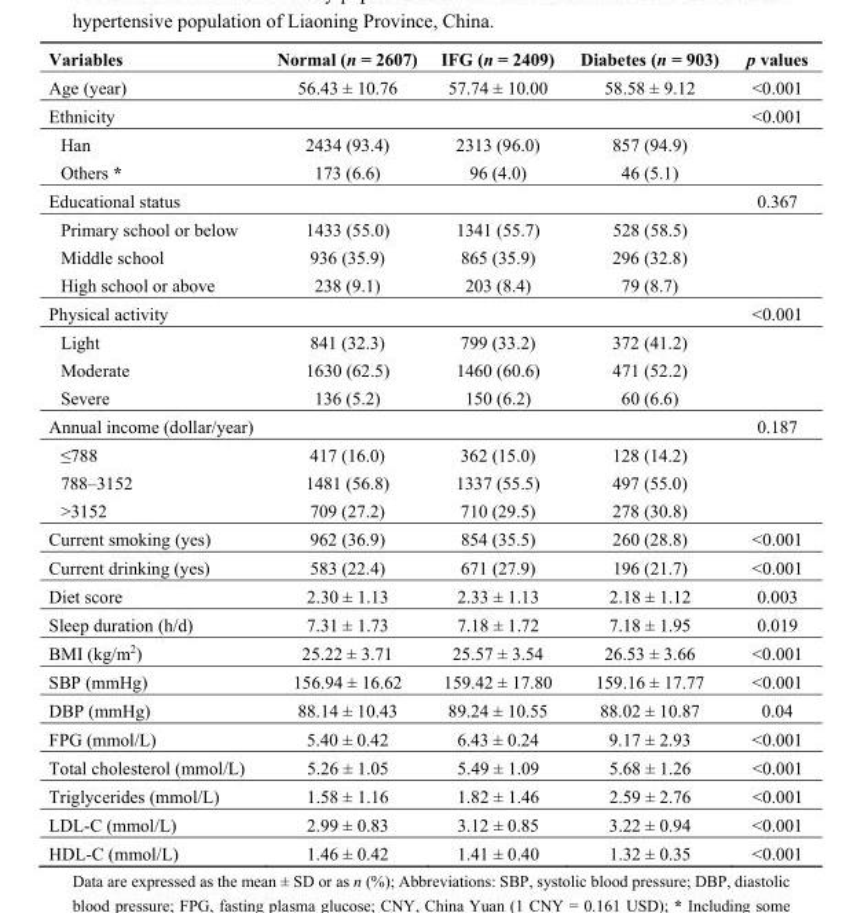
<table><thead><tr><td>Variables</td><td>Normal (n = 2607)</td><td>IFG (n = 2409)</td><td>Diabetes (n = 903)</td><td>p values</td></tr></thead><tbody><tr><td>Age (year)</td><td>56.43 ± 10.76</td><td>57.74 ± 10.00</td><td>58.58 ± 9.12</td><td>&lt;0.001</td></tr><tr><td>Ethnicity</td><td></td><td></td><td></td><td>&lt;0.001</td></tr><tr><td>Han</td><td>2434 (93.4)</td><td>2313 (96.0)</td><td>857 (94.9)</td><td></td></tr><tr><td>Others *</td><td>173 (6.6)</td><td>96 (4.0)</td><td>46 (5.1)</td><td></td></tr><tr><td>Educational status</td><td></td><td></td><td></td><td>0.367</td></tr><tr><td>Primary school or below</td><td>1433 (55.0)</td><td>1341 (55.7)</td><td>528 (58.5)</td><td></td></tr><tr><td>Middle school</td><td>936 (35.9)</td><td>865 (35.9)</td><td>296 (32.8)</td><td></td></tr><tr><td>High school or above</td><td>238 (9.1)</td><td>203 (8.4)</td><td>79 (8.7)</td><td></td></tr><tr><td>Physical activity</td><td></td><td></td><td></td><td>&lt;0.001</td></tr><tr><td>Light</td><td>841 (32.3)</td><td>799 (33.2)</td><td>372 (41.2)</td><td></td></tr><tr><td>Moderate</td><td>1630 (62.5)</td><td>1460 (60.6)</td><td>471 (52.2)</td><td></td></tr><tr><td>Severe</td><td>136 (5.2)</td><td>150 (6.2)</td><td>60 (6.6)</td><td></td></tr><tr><td>Annual income (dollar/year)</td><td></td><td></td><td></td><td>0.187</td></tr><tr><td>≤788</td><td>417 (16.0)</td><td>362 (15.0)</td><td>128 (14.2)</td><td></td></tr><tr><td>788–3152</td><td>1481 (56.8)</td><td>1337 (55.5)</td><td>497 (55.0)</td><td></td></tr><tr><td>&gt;3152</td><td>709 (27.2)</td><td>710 (29.5)</td><td>278 (30.8)</td><td></td></tr><tr><td>Current smoking (yes)</td><td>962 (36.9)</td><td>854 (35.5)</td><td>260 (28.8)</td><td>&lt;0.001</td></tr><tr><td>Current drinking (yes)</td><td>583 (22.4)</td><td>671 (27.9)</td><td>196 (21.7)</td><td>&lt;0.001</td></tr><tr><td>Diet score</td><td>2.30 ± 1.13</td><td>2.33 ± 1.13</td><td>2.18 ± 1.12</td><td>0.003</td></tr><tr><td>Sleep duration (h/d)</td><td>7.31 ± 1.73</td><td>7.18 ± 1.72</td><td>7.18 ± 1.95</td><td>0.019</td></tr><tr><td>BMI (kg/m<sup>2</sup>)</td><td>25.22 ± 3.71</td><td>25.57 ± 3.54</td><td>26.53 ± 3.66</td><td>&lt;0.001</td></tr><tr><td>SBP (mmHg)</td><td>156.94 ± 16.62</td><td>159.42 ± 17.80</td><td>159.16 ± 17.77</td><td>&lt;0.001</td></tr><tr><td>DBP (mmHg)</td><td>88.14 ± 10.43</td><td>89.24 ± 10.55</td><td>88.02 ± 10.87</td><td>0.04</td></tr><tr><td>FPG (mmol/L)</td><td>5.40 ± 0.42</td><td>6.43 ± 0.24</td><td>9.17 ± 2.93</td><td>&lt;0.001</td></tr><tr><td>Total cholesterol (mmol/L)</td><td>5.26 ± 1.05</td><td>5.49 ± 1.09</td><td>5.68 ± 1.26</td><td>&lt;0.001</td></tr><tr><td>Triglycerides (mmol/L)</td><td>1.58 ± 1.16</td><td>1.82 ± 1.46</td><td>2.59 ± 2.76</td><td>&lt;0.001</td></tr><tr><td>LDL-C (mmol/L)</td><td>2.99 ± 0.83</td><td>3.12 ± 0.85</td><td>3.22 ± 0.94</td><td>&lt;0.001</td></tr><tr><td>HDL-C (mmol/L)</td><td>1.46 ± 0.42</td><td>1.41 ± 0.40</td><td>1.32 ± 0.35</td><td>&lt;0.001</td></tr></tbody></table>